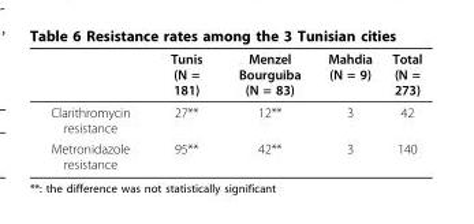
<table><thead><tr><td></td><td>Tunis (N = 181)</td><td>Menzel Bourguiba (N = 83)</td><td>Mahdia (N = 9)</td><td>Total (N = 273)</td></tr></thead><tbody><tr><td>Clarithromycin resistance</td><td>27**</td><td>12**</td><td>3</td><td>42</td></tr><tr><td>Metronidazole resistance</td><td>95**</td><td>42**</td><td>3</td><td>140</td></tr></tbody></table>